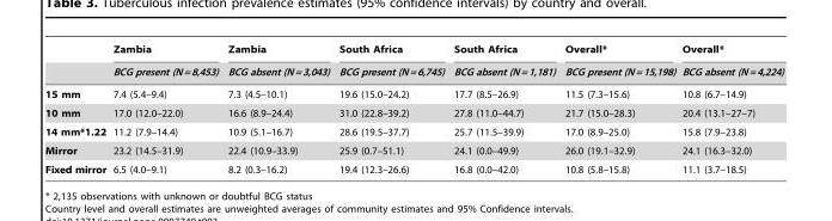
<table><thead><tr><td rowspan="2"></td><td rowspan="2">Zambia BCG present (N =8,453)</td><td rowspan="2">Zambia BCG absent (N=3,043)</td><td rowspan="2">South Africa BCG present (N =6,745)</td><td rowspan="2">South Africa BCG absent (N=1,181)</td><td rowspan="2">Overall* BCG present (N =15,198)</td><td rowspan="2">Overall* BCG absent (N=4,224)</td></tr><tr></tr></thead><tbody><tr><td>15 mm</td><td>7.4 (5.4–9.4)</td><td>7.3 (4.5–10.1)</td><td>19.6 (15.0–24.2)</td><td>17.7 (8.5–26.9)</td><td>11.5 (7.3–15.6)</td><td>10.8 (6.7–14.9)</td></tr><tr><td>10 mm</td><td>17.0 (12.0–22.0)</td><td>16.6 (8.9–24.4)</td><td>31.0 (22.8–39.2)</td><td>27.8 (11.0–44.7)</td><td>21.7 (15.0–28.3)</td><td>20.4 (13.1–27–7)</td></tr><tr><td>14 mm*1.22</td><td>11.2 (7.9–14.4)</td><td>10.9 (5.1–16.7)</td><td>28.6 (19.5–37.7)</td><td>25.7 (11.5–39.9)</td><td>17.0 (8.9–25.0)</td><td>15.8 (7.9–23.8)</td></tr><tr><td>Mirror</td><td>23.2 (14.5–31.9)</td><td>22.4 (10.9–33.9)</td><td>25.9 (0.7–51.1)</td><td>24.1 (0.0–49.9)</td><td>26.0 (19.1–32.9)</td><td>24.1 (16.3–32.0)</td></tr><tr><td>Fixed mirror</td><td>6.5 (4.0–9.1)</td><td>8.2 (0.3–16.2)</td><td>19.4 (12.3–26.6)</td><td>16.8 (0.0–42.0)</td><td>10.8 (5.8–15.8)</td><td>11.1 (3.7–18.5)</td></tr></tbody></table>